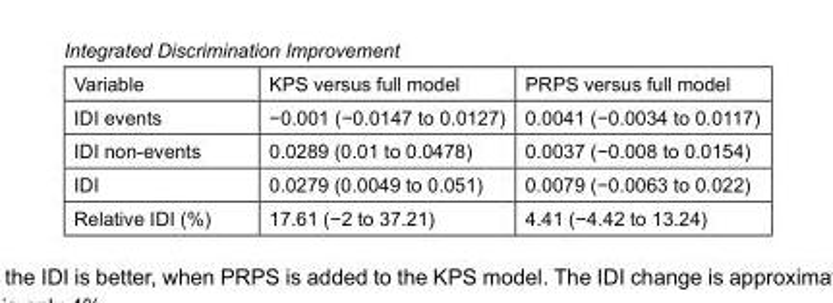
<table><tbody><tr><td>Variable</td><td>KPS versus full model</td><td>PRPS versus full model</td></tr><tr><td>IDI events</td><td>−0.001 (−0.0147 to 0.0127)</td><td>0.0041 (−0.0034 to 0.0117)</td></tr><tr><td>IDI non-events</td><td>0.0289 (0.01 to 0.0478)</td><td>0.0037 (−0.008 to 0.0154)</td></tr><tr><td>IDI</td><td>0.0279 (0.0049 to 0.051)</td><td>0.0079 (−0.0063 to 0.022)</td></tr><tr><td>Relative IDI (%)</td><td>17.61 (−2 to 37.21)</td><td>4.41 (−4.42 to 13.24)</td></tr></tbody></table>